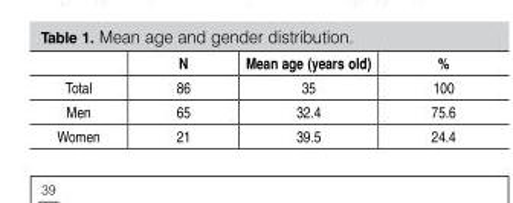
<table><thead><tr><td></td><td>N</td><td>Mean age (years old)</td><td>%</td></tr></thead><tbody><tr><td>Total</td><td>86</td><td>35</td><td>100</td></tr><tr><td>Men</td><td>65</td><td>32.4</td><td>75.6</td></tr><tr><td>Women</td><td>21</td><td>39.5</td><td>24.4</td></tr></tbody></table>